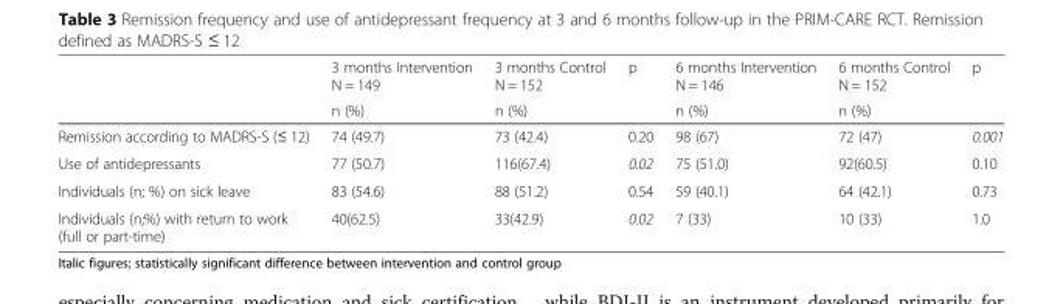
<table><thead><tr><td rowspan="2"></td><td rowspan="2">3 months Intervention N = 149 n (%)</td><td rowspan="2">3 months Control N = 152 n (%)</td><td rowspan="2">p</td><td rowspan="2">6 months Intervention N = 146 n (%)</td><td rowspan="2">6 months Control N = 152 n (%)</td><td rowspan="2">p</td></tr><tr></tr></thead><tbody><tr><td>Remission according to MADRS-S (≤ 12)</td><td>74 (49.7)</td><td>73 (42.4)</td><td>0.20</td><td>98 (67)</td><td>72 (47)</td><td>0.001</td></tr><tr><td>Use of antidepressants</td><td>77 (50.7)</td><td>116(67.4)</td><td>0.02</td><td>75 (51.0)</td><td>92(60.5)</td><td>0.10</td></tr><tr><td>Individuals (n; %) on sick leave</td><td>83 (54.6)</td><td>88 (51.2)</td><td>0.54</td><td>59 (40.1)</td><td>64 (42.1)</td><td>0.73</td></tr><tr><td>Individuals (n;%) with return to work (full or part-time)</td><td>40(62.5)</td><td>33(42.9)</td><td>0.02</td><td>7 (33)</td><td>10 (33)</td><td>1.0</td></tr></tbody></table>